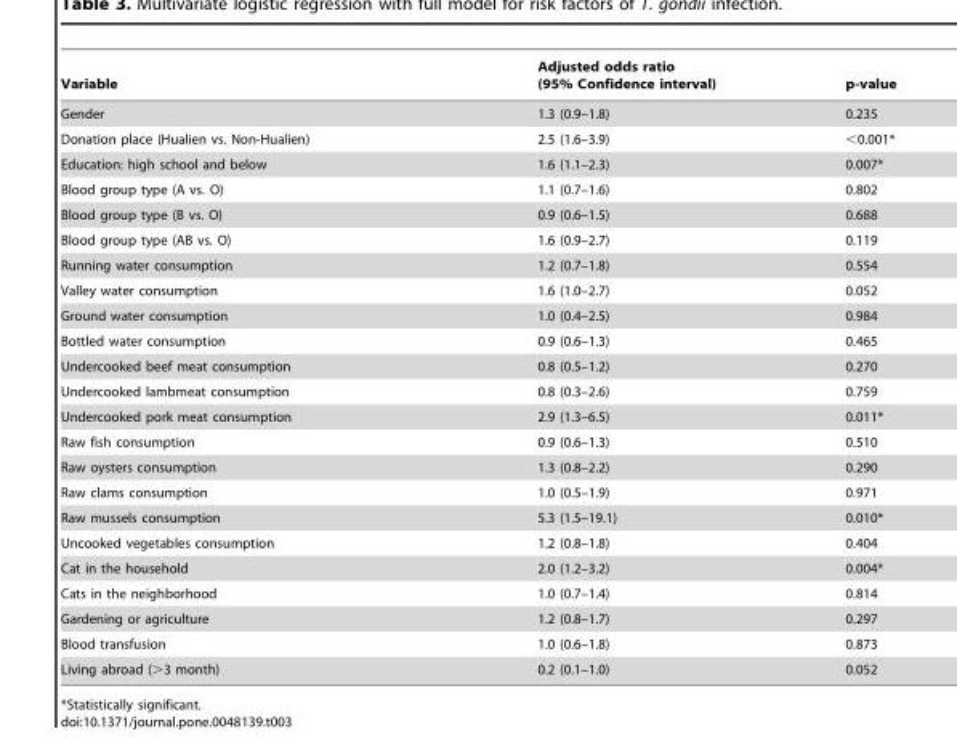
<table><thead><tr><td>Variable</td><td>Adjusted odds ratio (95% Confidence interval)</td><td>p-value</td></tr></thead><tbody><tr><td>Gender</td><td>1.3 (0.9–1.8)</td><td>0.235</td></tr><tr><td>Donation place (Hualien vs. Non-Hualien)</td><td>2.5 (1.6–3.9)</td><td>&lt;0.001*</td></tr><tr><td>Education: high school and below</td><td>1.6 (1.1–2.3)</td><td>0.007*</td></tr><tr><td>Blood group type (A vs. O)</td><td>1.1 (0.7–1.6)</td><td>0.802</td></tr><tr><td>Blood group type (B vs. O)</td><td>0.9 (0.6–1.5)</td><td>0.688</td></tr><tr><td>Blood group type (AB vs. O)</td><td>1.6 (0.9–2.7)</td><td>0.119</td></tr><tr><td>Running water consumption</td><td>1.2 (0.7–1.8)</td><td>0.554</td></tr><tr><td>Valley water consumption</td><td>1.6 (1.0–2.7)</td><td>0.052</td></tr><tr><td>Ground water consumption</td><td>1.0 (0.4–2.5)</td><td>0.984</td></tr><tr><td>Bottled water consumption</td><td>0.9 (0.6–1.3)</td><td>0.465</td></tr><tr><td>Undercooked beef meat consumption</td><td>0.8 (0.5–1.2)</td><td>0.270</td></tr><tr><td>Undercooked lambmeat consumption</td><td>0.8 (0.3–2.6)</td><td>0.759</td></tr><tr><td>Undercooked pork meat consumption</td><td>2.9 (1.3–6.5)</td><td>0.011*</td></tr><tr><td>Raw fish consumption</td><td>0.9 (0.6–1.3)</td><td>0.510</td></tr><tr><td>Raw oysters consumption</td><td>1.3 (0.8–2.2)</td><td>0.290</td></tr><tr><td>Raw clams consumption</td><td>1.0 (0.5–1.9)</td><td>0.971</td></tr><tr><td>Raw mussels consumption</td><td>5.3 (1.5–19.1)</td><td>0.010*</td></tr><tr><td>Uncooked vegetables consumption</td><td>1.2 (0.8–1.8)</td><td>0.404</td></tr><tr><td>Cat in the household</td><td>2.0 (1.2–3.2)</td><td>0.004*</td></tr><tr><td>Cats in the neighborhood</td><td>1.0 (0.7–1.4)</td><td>0.814</td></tr><tr><td>Gardening or agriculture</td><td>1.2 (0.8–1.7)</td><td>0.297</td></tr><tr><td>Blood transfusion</td><td>1.0 (0.6–1.8)</td><td>0.873</td></tr><tr><td>Living abroad (&gt;3 month)</td><td>0.2 (0.1–1.0)</td><td>0.052</td></tr></tbody></table>